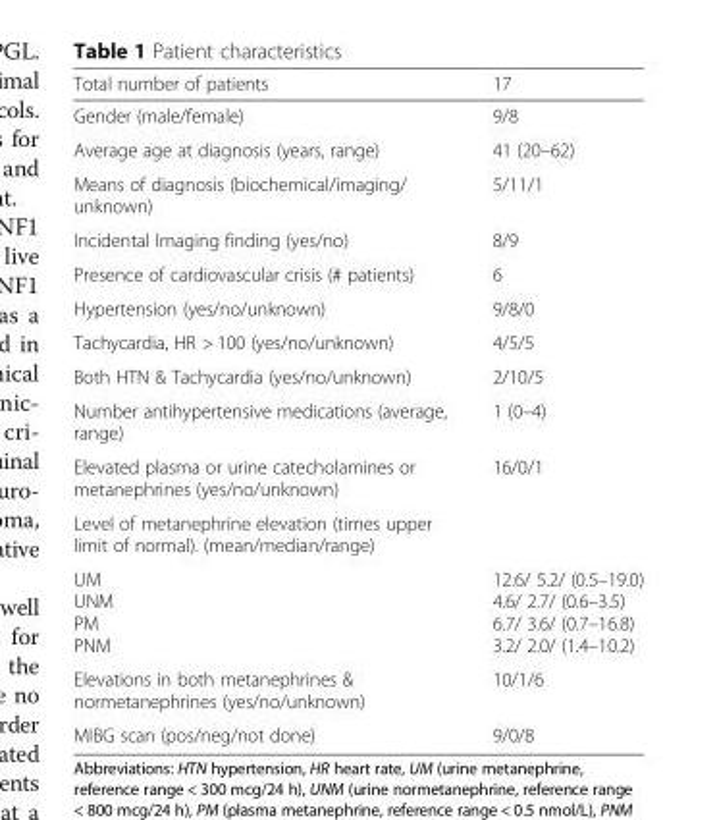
<table><thead><tr><td>Total number of patients</td><td>17</td></tr></thead><tbody><tr><td>Gender (male/female)</td><td>9/8</td></tr><tr><td>Average age at diagnosis (years, range)</td><td>41 (20–62)</td></tr><tr><td>Means of diagnosis (biochemical/imaging/ unknown)</td><td>5/11/1</td></tr><tr><td>Incidental Imaging finding (yes/no)</td><td>8/9</td></tr><tr><td>Presence of cardiovascular crisis (# patients)</td><td>6</td></tr><tr><td>Hypertension (yes/no/unknown)</td><td>9/8/0</td></tr><tr><td>Tachycardia, HR &gt; 100 (yes/no/unknown)</td><td>4/5/5</td></tr><tr><td>Both HTN &amp; Tachycardia (yes/no/unknown)</td><td>2/10/5</td></tr><tr><td>Number antihypertensive medications (average, range)</td><td>1 (0–4)</td></tr><tr><td>Elevated plasma or urine catecholamines or metanephrines (yes/no/unknown)</td><td>16/0/1</td></tr><tr><td colspan="2">Level of metanephrine elevation (times upper limit of normal). (mean/median/range)</td></tr><tr><td>UM UNM PM PNM</td><td>12.6/ 5.2/ (0.5–19.0) 4.6/ 2.7/ (0.6–3.5) 6.7/ 3.6/ (0.7–16.8) 3.2/ 2.0/ (1.4–10.2)</td></tr><tr><td>Elevations in both metanephrines &amp; normetanephrines (yes/no/unknown)</td><td>10/1/6</td></tr><tr><td>MIBG scan (pos/neg/not done)</td><td>9/0/8</td></tr></tbody></table>